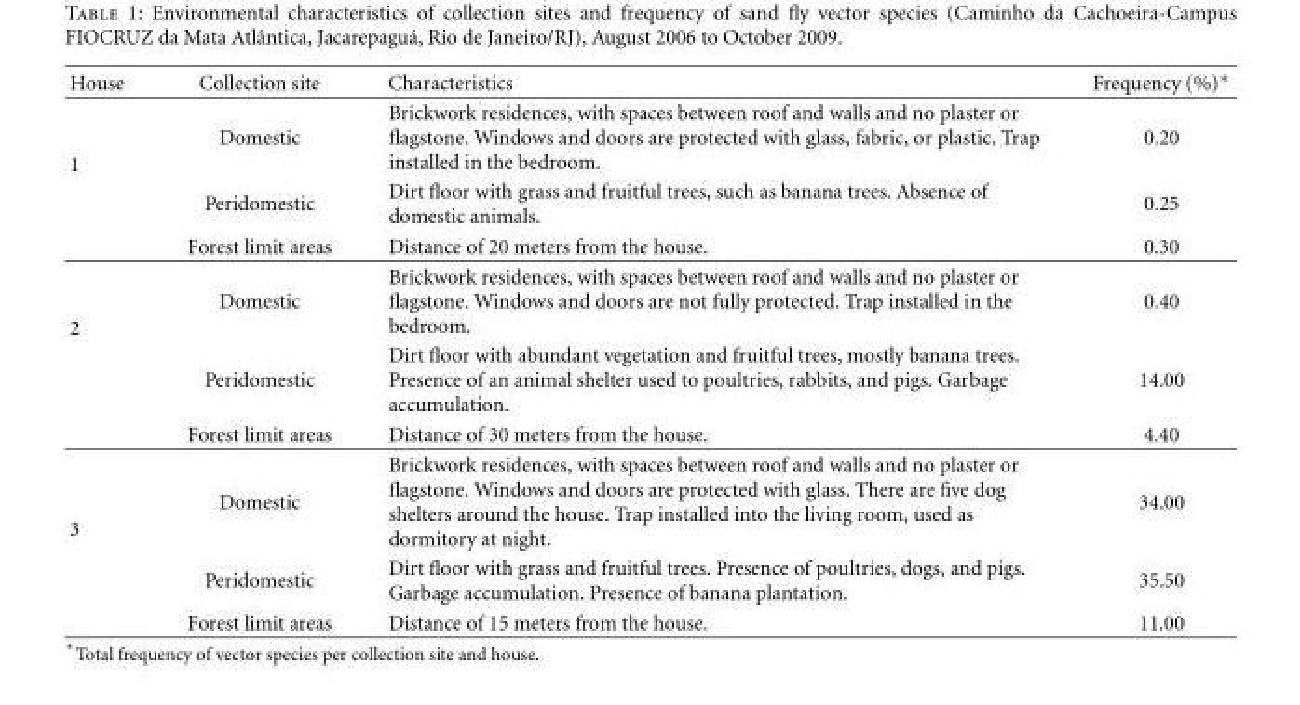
<table><thead><tr><td>House</td><td>Collection site</td><td>Characteristics</td><td>Frequency (%)∗</td></tr></thead><tbody><tr><td rowspan="3">1</td><td>Domestic</td><td>Brickwork residences, with spaces between roof and walls and no plaster or flagstone. Windows and doors are protected with glass, fabric, or plastic. Trap installed in the bedroom.</td><td>0.20</td></tr><tr><td>Peridomestic</td><td>Dirt floor with grass and fruitful trees, such as banana trees. Absence of domestic animals.</td><td>0.25</td></tr><tr><td>Forest limit areas</td><td>Distance of 20 meters from the house.</td><td>0.30</td></tr><tr><td rowspan="3">2</td><td>Domestic</td><td>Brickwork residences, with spaces between roof and walls and no plaster or flagstone. Windows and doors are not fully protected. Trap installed in the bedroom.</td><td>0.40</td></tr><tr><td>Peridomestic</td><td>Dirt floor with abundant vegetation and fruitful trees, mostly banana trees. Presence of an animal shelter used to poultries, rabbits, and pigs. Garbage accumulation.</td><td>14.00</td></tr><tr><td>Forest limit areas</td><td>Distance of 30 meters from the house.</td><td>4.40</td></tr><tr><td rowspan="3">3</td><td>Domestic</td><td>Brickwork residences, with spaces between roof and walls and no plaster or flagstone. Windows and doors are protected with glass. There are five dog shelters around the house. Trap installed into the living room, used as dormitory at night.</td><td>34.00</td></tr><tr><td>Peridomestic</td><td>Dirt floor with grass and fruitful trees. Presence of poultries, dogs, and pigs. Garbage accumulation. Presence of banana plantation.</td><td>35.50</td></tr><tr><td>Forest limit areas</td><td>Distance of 15 meters from the house.</td><td>11.00</td></tr></tbody></table>